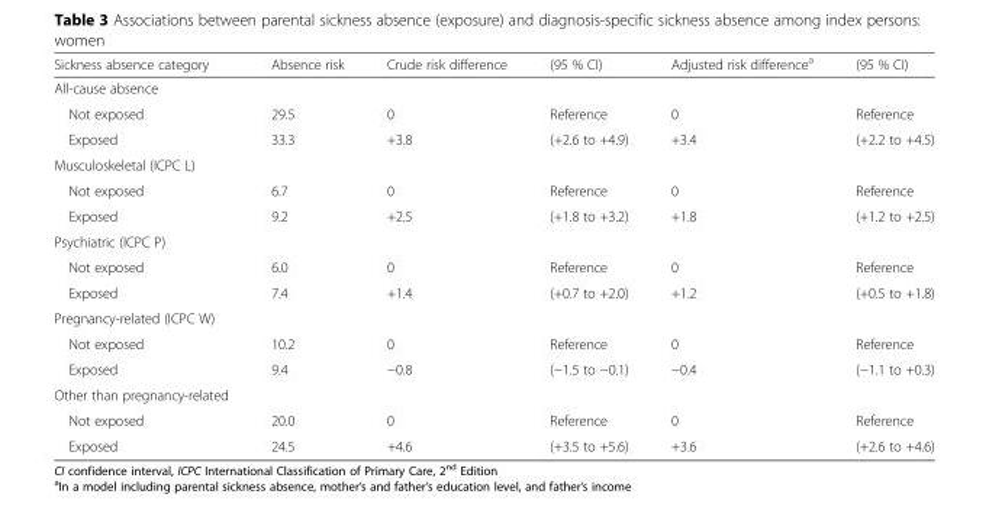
<table><thead><tr><td>Sickness absence category</td><td>Absence risk</td><td>Crude risk difference</td><td>(95 % CI)</td><td>Adjusted risk difference<sup>a</sup></td><td>(95 % CI)</td></tr></thead><tbody><tr><td colspan="6">All-cause absence</td></tr><tr><td>Not exposed</td><td>29.5</td><td>0</td><td>Reference</td><td>0</td><td>Reference</td></tr><tr><td>Exposed</td><td>33.3</td><td>+3.8</td><td>(+2.6 to +4.9)</td><td>+3.4</td><td>(+2.2 to +4.5)</td></tr><tr><td colspan="6">Musculoskeletal (ICPC L)</td></tr><tr><td>Not exposed</td><td>6.7</td><td>0</td><td>Reference</td><td>0</td><td>Reference</td></tr><tr><td>Exposed</td><td>9.2</td><td>+2.5</td><td>(+1.8 to +3.2)</td><td>+1.8</td><td>(+1.2 to +2.5)</td></tr><tr><td colspan="6">Psychiatric (ICPC P)</td></tr><tr><td>Not exposed</td><td>6.0</td><td>0</td><td>Reference</td><td>0</td><td>Reference</td></tr><tr><td>Exposed</td><td>7.4</td><td>+1.4</td><td>(+0.7 to +2.0)</td><td>+1.2</td><td>(+0.5 to +1.8)</td></tr><tr><td colspan="6">Pregnancy-related (ICPC W)</td></tr><tr><td>Not exposed</td><td>10.2</td><td>0</td><td>Reference</td><td>0</td><td>Reference</td></tr><tr><td>Exposed</td><td>9.4</td><td>−0.8</td><td>(−1.5 to −0.1)</td><td>−0.4</td><td>(−1.1 to +0.3)</td></tr><tr><td colspan="6">Other than pregnancy-related</td></tr><tr><td>Not exposed</td><td>20.0</td><td>0</td><td>Reference</td><td>0</td><td>Reference</td></tr><tr><td>Exposed</td><td>24.5</td><td>+4.6</td><td>(+3.5 to +5.6)</td><td>+3.6</td><td>(+2.6 to +4.6)</td></tr></tbody></table>